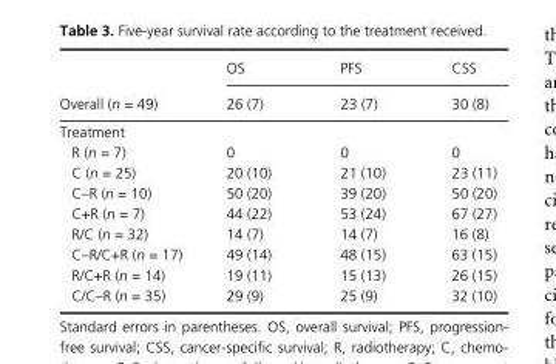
<table><thead><tr><td rowspan="2">Overall (n = 49)</td><td rowspan="2">OS 26 (7)</td><td rowspan="2">PFS 23 (7)</td><td rowspan="2">CSS 30 (8)</td></tr><tr></tr></thead><tbody><tr><td colspan="4">Treatment</td></tr><tr><td>R (n = 7)</td><td>0</td><td>0</td><td>0</td></tr><tr><td>C (n = 25)</td><td>20 (10)</td><td>21 (10)</td><td>23 (11)</td></tr><tr><td>C–R (n = 10)</td><td>50 (20)</td><td>39 (20)</td><td>50 (20)</td></tr><tr><td>C+R (n = 7)</td><td>44 (22)</td><td>53 (24)</td><td>67 (27)</td></tr><tr><td>R/C (n = 32)</td><td>14 (7)</td><td>14 (7)</td><td>16 (8)</td></tr><tr><td>C–R/C+R (n = 17)</td><td>49 (14)</td><td>48 (15)</td><td>63 (15)</td></tr><tr><td>R/C+R (n = 14)</td><td>19 (11)</td><td>15 (13)</td><td>26 (15)</td></tr><tr><td>C/C–R (n = 35)</td><td>29 (9)</td><td>25 (9)</td><td>32 (10)</td></tr></tbody></table>